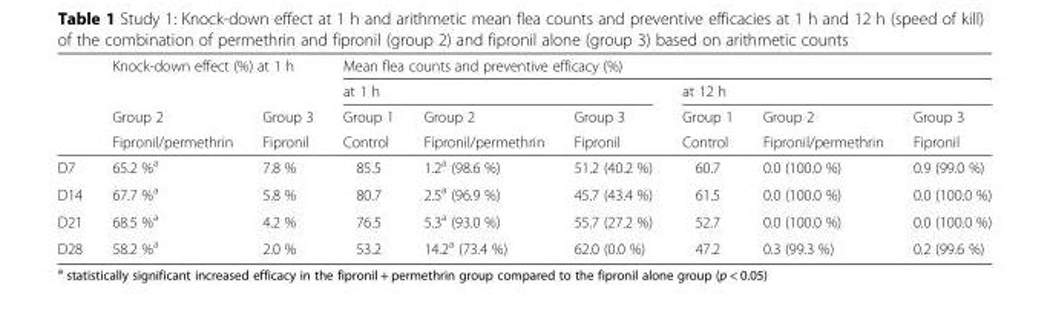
<table><thead><tr><td rowspan="4"></td><td rowspan="2" colspan="2">Knock-down effect (%) at 1 h</td><td colspan="6">Mean flea counts and preventive efficacy (%)</td></tr><tr><td colspan="3">at 1 h</td><td colspan="3">at 12 h</td></tr><tr><td rowspan="2">Group 2 Fipronil/permethrin</td><td rowspan="2">Group 3 Fipronil</td><td rowspan="2">Group 1 Control</td><td rowspan="2">Group 2 Fipronil/permethrin</td><td rowspan="2">Group 3 Fipronil</td><td rowspan="2">Group 1 Control</td><td rowspan="2">Group 2 Fipronil/permethrin</td><td rowspan="2">Group 3 Fipronil</td></tr><tr></tr></thead><tbody><tr><td>D7</td><td>65.2 %<sup>a</sup></td><td>7.8 %</td><td>85.5</td><td>1.2<sup>a</sup> (98.6 %)</td><td>51.2 (40.2 %)</td><td>60.7</td><td>0.0 (100.0 %)</td><td>0.9 (99.0 %)</td></tr><tr><td>D14</td><td>67.7 %<sup>a</sup></td><td>5.8 %</td><td>80.7</td><td>2.5<sup>a</sup> (96.9 %)</td><td>45.7 (43.4 %)</td><td>61.5</td><td>0.0 (100.0 %)</td><td>0.0 (100.0 %)</td></tr><tr><td>D21</td><td>68.5 %<sup>a</sup></td><td>4.2 %</td><td>76.5</td><td>5.3<sup>a</sup> (93.0 %)</td><td>55.7 (27.2 %)</td><td>52.7</td><td>0.0 (100.0 %)</td><td>0.0 (100.0 %)</td></tr><tr><td>D28</td><td>58.2 %<sup>a</sup></td><td>2.0 %</td><td>53.2</td><td>14.2<sup>a</sup> (73.4 %)</td><td>62.0 (0.0 %)</td><td>47.2</td><td>0.3 (99.3 %)</td><td>0.2 (99.6 %)</td></tr></tbody></table>